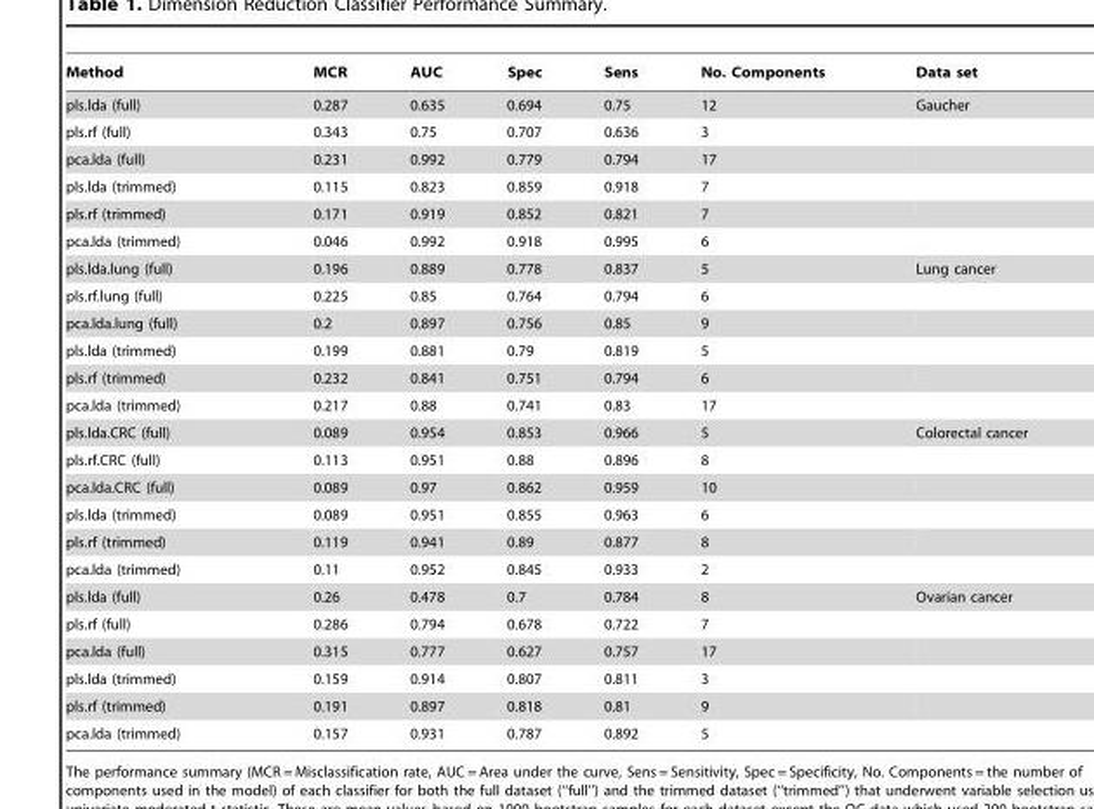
<table><thead><tr><td>Method</td><td>MCR</td><td>AUC</td><td>Spec</td><td>Sens</td><td>No. Components</td><td>Data set</td></tr></thead><tbody><tr><td>pls.lda (full)</td><td>0.287</td><td>0.635</td><td>0.694</td><td>0.75</td><td>12</td><td>Gaucher</td></tr><tr><td>pls.rf (full)</td><td>0.343</td><td>0.75</td><td>0.707</td><td>0.636</td><td>3</td><td></td></tr><tr><td>pca.lda (full)</td><td>0.231</td><td>0.992</td><td>0.779</td><td>0.794</td><td>17</td><td></td></tr><tr><td>pls.lda (trimmed)</td><td>0.115</td><td>0.823</td><td>0.859</td><td>0.918</td><td>7</td><td></td></tr><tr><td>pls.rf (trimmed)</td><td>0.171</td><td>0.919</td><td>0.852</td><td>0.821</td><td>7</td><td></td></tr><tr><td>pca.lda (trimmed)</td><td>0.046</td><td>0.992</td><td>0.918</td><td>0.995</td><td>6</td><td></td></tr><tr><td>pls.lda.lung (full)</td><td>0.196</td><td>0.889</td><td>0.778</td><td>0.837</td><td>5</td><td>Lung cancer</td></tr><tr><td>pls.rf.lung (full)</td><td>0.225</td><td>0.85</td><td>0.764</td><td>0.794</td><td>6</td><td></td></tr><tr><td>pca.lda.lung (full)</td><td>0.2</td><td>0.897</td><td>0.756</td><td>0.85</td><td>9</td><td></td></tr><tr><td>pls.lda (trimmed)</td><td>0.199</td><td>0.881</td><td>0.79</td><td>0.819</td><td>5</td><td></td></tr><tr><td>pls.rf (trimmed)</td><td>0.232</td><td>0.841</td><td>0.751</td><td>0.794</td><td>6</td><td></td></tr><tr><td>pca.lda (trimmed)</td><td>0.217</td><td>0.88</td><td>0.741</td><td>0.83</td><td>17</td><td></td></tr><tr><td>pls.lda.CRC (full)</td><td>0.089</td><td>0.954</td><td>0.853</td><td>0.966</td><td>5</td><td>Colorectal cancer</td></tr><tr><td>pls.rf.CRC (full)</td><td>0.113</td><td>0.951</td><td>0.88</td><td>0.896</td><td>8</td><td></td></tr><tr><td>pca.lda.CRC (full)</td><td>0.089</td><td>0.97</td><td>0.862</td><td>0.959</td><td>10</td><td></td></tr><tr><td>pls.lda (trimmed)</td><td>0.089</td><td>0.951</td><td>0.855</td><td>0.963</td><td>6</td><td></td></tr><tr><td>pls.rf (trimmed)</td><td>0.119</td><td>0.941</td><td>0.89</td><td>0.877</td><td>8</td><td></td></tr><tr><td>pca.lda (trimmed)</td><td>0.11</td><td>0.952</td><td>0.845</td><td>0.933</td><td>2</td><td></td></tr><tr><td>pls.lda (full)</td><td>0.26</td><td>0.478</td><td>0.7</td><td>0.784</td><td>8</td><td>Ovarian cancer</td></tr><tr><td>pls.rf (full)</td><td>0.286</td><td>0.794</td><td>0.678</td><td>0.722</td><td>7</td><td></td></tr><tr><td>pca.lda (full)</td><td>0.315</td><td>0.777</td><td>0.627</td><td>0.757</td><td>17</td><td></td></tr><tr><td>pls.lda (trimmed)</td><td>0.159</td><td>0.914</td><td>0.807</td><td>0.811</td><td>3</td><td></td></tr><tr><td>pls.rf (trimmed)</td><td>0.191</td><td>0.897</td><td>0.818</td><td>0.81</td><td>9</td><td></td></tr><tr><td>pca.lda (trimmed)</td><td>0.157</td><td>0.931</td><td>0.787</td><td>0.892</td><td>5</td><td></td></tr></tbody></table>